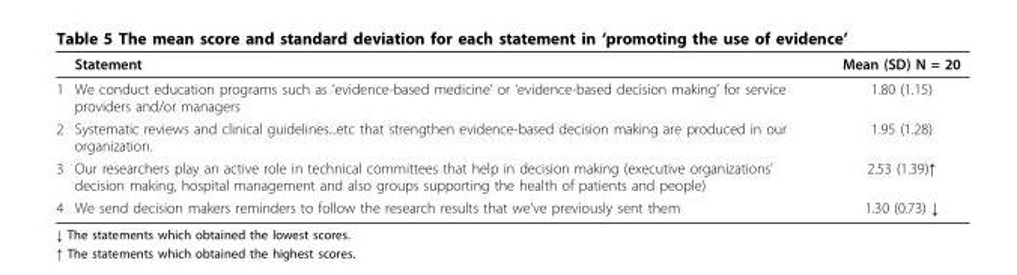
<table><thead><tr><td></td><td>Statement</td><td>Mean (SD) N = 20</td></tr></thead><tbody><tr><td>1</td><td>We conduct education programs such as ‘evidence-based medicine’ or ‘evidence-based decision making’ for service providers and/or managers</td><td>1.80 (1.15)</td></tr><tr><td>2</td><td>Systematic reviews and clinical guidelines...etc that strengthen evidence-based decision making are produced in our organization.</td><td>1.95 (1.28)</td></tr><tr><td>3</td><td>Our researchers play an active role in technical committees that help in decision making (executive organizations’ decision making, hospital management and also groups supporting the health of patients and people)</td><td>2.53 (1.39)↑</td></tr><tr><td>4</td><td>We send decision makers reminders to follow the research results that we’ve previously sent them</td><td>1.30 (0.73) ↓</td></tr></tbody></table>